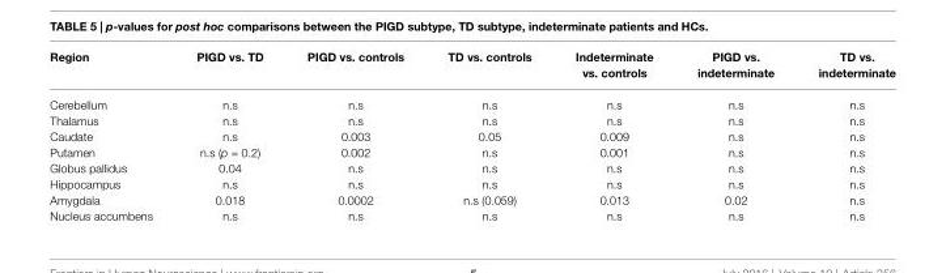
<table><thead><tr><td>Region</td><td>PIGD vs. TD</td><td>PIGD vs. controls</td><td>TD vs. controls</td><td>Indeterminate vs. controls</td><td>PIGD vs. indeterminate</td><td>TD vs. indeterminate</td></tr></thead><tbody><tr><td>Cerebellum</td><td>n.s</td><td>n.s</td><td>n.s</td><td>n.s</td><td>n.s</td><td>n.s</td></tr><tr><td>Thalamus</td><td>n.s</td><td>n.s</td><td>n.s</td><td>n.s</td><td>n.s</td><td>n.s</td></tr><tr><td>Caudate</td><td>n.s</td><td>0.003</td><td>0.05</td><td>0.009</td><td>n.s</td><td>n.s</td></tr><tr><td>Putamen</td><td>n.s (p = 0.2)</td><td>0.002</td><td>n.s</td><td>0.001</td><td>n.s</td><td>n.s</td></tr><tr><td>Globus pallidus</td><td>0.04</td><td>n.s</td><td>n.s</td><td>n.s</td><td>n.s</td><td>n.s</td></tr><tr><td>Hippocampus</td><td>n.s</td><td>n.s</td><td>n.s</td><td>n.s</td><td>n.s</td><td>n.s</td></tr><tr><td>Amygdala</td><td>0.018</td><td>0.0002</td><td>n.s (0.059)</td><td>0.013</td><td>0.02</td><td>n.s</td></tr><tr><td>Nucleus accumbens</td><td>n.s</td><td>n.s</td><td>n.s</td><td>n.s</td><td>n.s</td><td>n.s</td></tr></tbody></table>